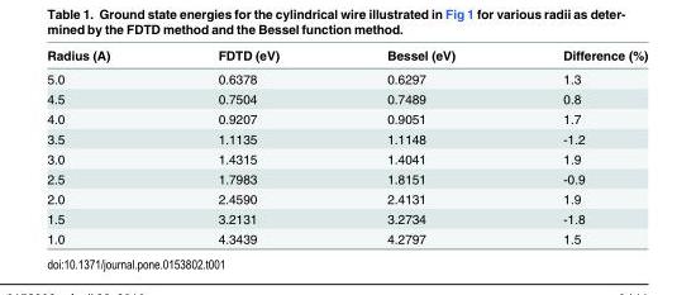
<table><thead><tr><td>Radius (A)</td><td>FDTD (eV)</td><td>Bessel (eV)</td><td>Difference (%)</td></tr></thead><tbody><tr><td>5.0</td><td>0.6378</td><td>0.6297</td><td>1.3</td></tr><tr><td>4.5</td><td>0.7504</td><td>0.7489</td><td>0.8</td></tr><tr><td>4.0</td><td>0.9207</td><td>0.9051</td><td>1.7</td></tr><tr><td>3.5</td><td>1.1135</td><td>1.1148</td><td>-1.2</td></tr><tr><td>3.0</td><td>1.4315</td><td>1.4041</td><td>1.9</td></tr><tr><td>2.5</td><td>1.7983</td><td>1.8151</td><td>-0.9</td></tr><tr><td>2.0</td><td>2.4590</td><td>2.4131</td><td>1.9</td></tr><tr><td>1.5</td><td>3.2131</td><td>3.2734</td><td>-1.8</td></tr><tr><td>1.0</td><td>4.3439</td><td>4.2797</td><td>1.5</td></tr></tbody></table>